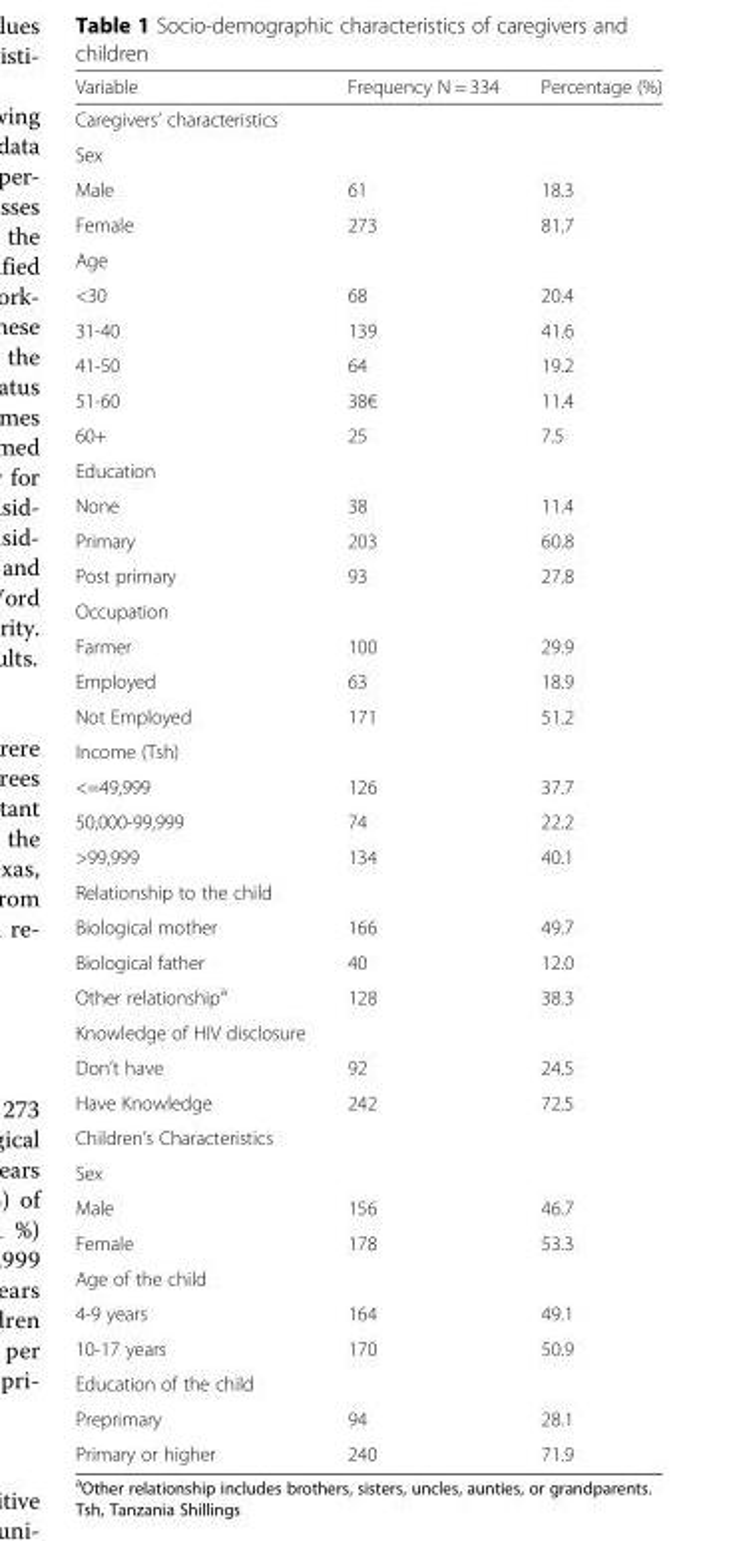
<table><thead><tr><td>Variable</td><td>Frequency N = 334</td><td>Percentage (%)</td></tr></thead><tbody><tr><td colspan="3">Caregivers’ characteristics</td></tr><tr><td colspan="3">Sex</td></tr><tr><td>Male</td><td>61</td><td>18.3</td></tr><tr><td>Female</td><td>273</td><td>81.7</td></tr><tr><td colspan="3">Age</td></tr><tr><td>&lt;30</td><td>68</td><td>20.4</td></tr><tr><td>31-40</td><td>139</td><td>41.6</td></tr><tr><td>41-50</td><td>64</td><td>19.2</td></tr><tr><td>51-60</td><td>38€</td><td>11.4</td></tr><tr><td>60+</td><td>25</td><td>7.5</td></tr><tr><td colspan="3">Education</td></tr><tr><td>None</td><td>38</td><td>11.4</td></tr><tr><td>Primary</td><td>203</td><td>60.8</td></tr><tr><td>Post primary</td><td>93</td><td>27.8</td></tr><tr><td colspan="3">Occupation</td></tr><tr><td>Farmer</td><td>100</td><td>29.9</td></tr><tr><td>Employed</td><td>63</td><td>18.9</td></tr><tr><td>Not Employed</td><td>171</td><td>51.2</td></tr><tr><td colspan="3">Income (Tsh)</td></tr><tr><td>&lt;=49,999</td><td>126</td><td>37.7</td></tr><tr><td>50,000-99,999</td><td>74</td><td>22.2</td></tr><tr><td>&gt;99,999</td><td>134</td><td>40.1</td></tr><tr><td colspan="3">Relationship to the child</td></tr><tr><td>Biological mother</td><td>166</td><td>49.7</td></tr><tr><td>Biological father</td><td>40</td><td>12.0</td></tr><tr><td>Other relationship<sup>a</sup></td><td>128</td><td>38.3</td></tr><tr><td colspan="3">Knowledge of HIV disclosure</td></tr><tr><td>Don’t have</td><td>92</td><td>24.5</td></tr><tr><td>Have Knowledge</td><td>242</td><td>72.5</td></tr><tr><td colspan="3">Children’s Characteristics</td></tr><tr><td colspan="3">Sex</td></tr><tr><td>Male</td><td>156</td><td>46.7</td></tr><tr><td>Female</td><td>178</td><td>53.3</td></tr><tr><td colspan="3">Age of the child</td></tr><tr><td>4-9 years</td><td>164</td><td>49.1</td></tr><tr><td>10-17 years</td><td>170</td><td>50.9</td></tr><tr><td colspan="3">Education of the child</td></tr><tr><td>Preprimary</td><td>94</td><td>28.1</td></tr><tr><td>Primary or higher</td><td>240</td><td>71.9</td></tr></tbody></table>